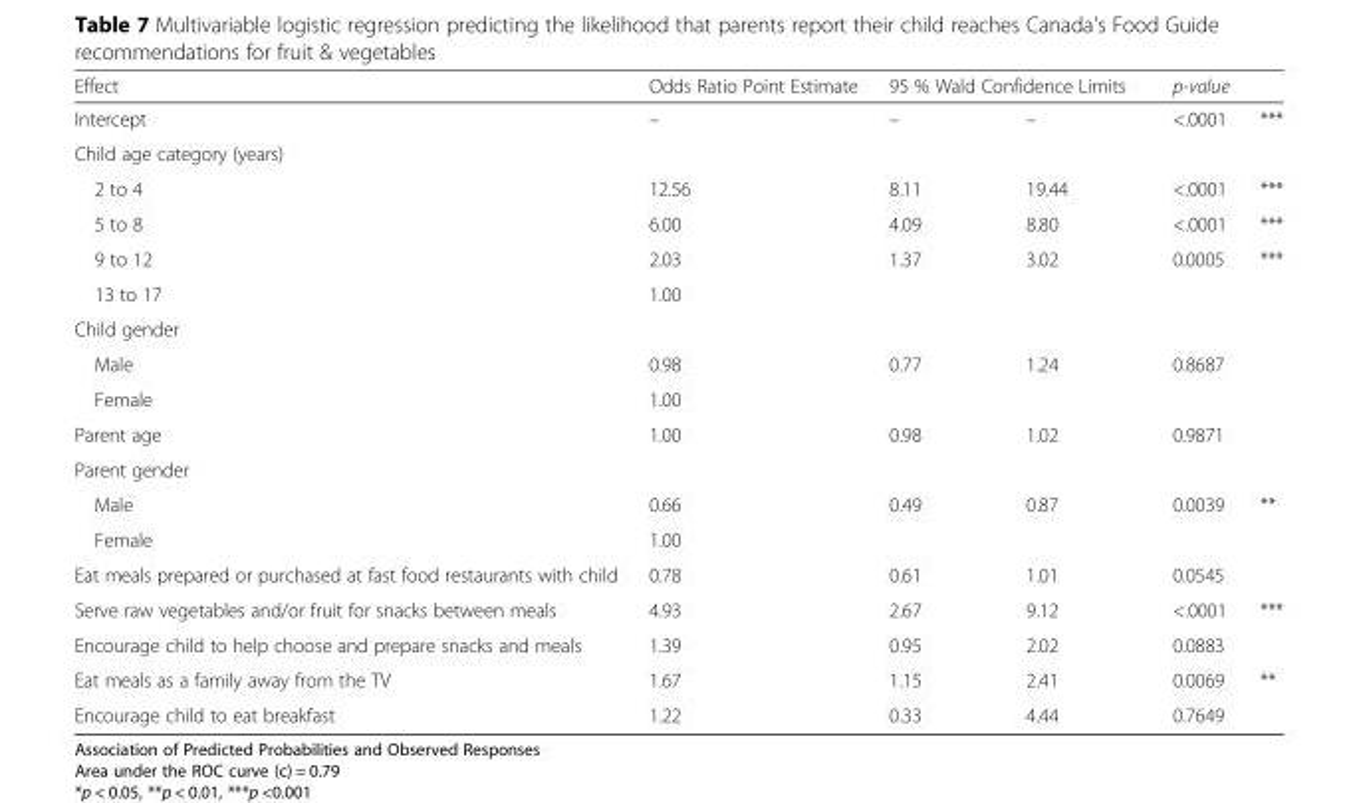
<table><thead><tr><td rowspan="2">Effect Intercept</td><td rowspan="2">Odds Ratio Point Estimate –</td><td colspan="2">95 % Wald Confidence Limits</td><td rowspan="2">p-value &lt;.0001</td><td rowspan="2">***</td></tr><tr><td>–</td><td>–</td></tr></thead><tbody><tr><td colspan="6">Child age category (years)</td></tr><tr><td>2 to 4</td><td>12.56</td><td>8.11</td><td>19.44</td><td>&lt;.0001</td><td>***</td></tr><tr><td>5 to 8</td><td>6.00</td><td>4.09</td><td>8.80</td><td>&lt;.0001</td><td>***</td></tr><tr><td>9 to 12</td><td>2.03</td><td>1.37</td><td>3.02</td><td>0.0005</td><td>***</td></tr><tr><td>13 to 17</td><td>1.00</td><td></td><td></td><td></td><td></td></tr><tr><td colspan="6">Child gender</td></tr><tr><td>Male</td><td>0.98</td><td>0.77</td><td>1.24</td><td>0.8687</td><td></td></tr><tr><td>Female</td><td>1.00</td><td></td><td></td><td></td><td></td></tr><tr><td>Parent age</td><td>1.00</td><td>0.98</td><td>1.02</td><td>0.9871</td><td></td></tr><tr><td colspan="6">Parent gender</td></tr><tr><td>Male</td><td>0.66</td><td>0.49</td><td>0.87</td><td>0.0039</td><td>**</td></tr><tr><td>Female</td><td>1.00</td><td></td><td></td><td></td><td></td></tr><tr><td>Eat meals prepared or purchased at fast food restaurants with child</td><td>0.78</td><td>0.61</td><td>1.01</td><td>0.0545</td><td></td></tr><tr><td>Serve raw vegetables and/or fruit for snacks between meals</td><td>4.93</td><td>2.67</td><td>9.12</td><td>&lt;.0001</td><td>***</td></tr><tr><td>Encourage child to help choose and prepare snacks and meals</td><td>1.39</td><td>0.95</td><td>2.02</td><td>0.0883</td><td></td></tr><tr><td>Eat meals as a family away from the TV</td><td>1.67</td><td>1.15</td><td>2.41</td><td>0.0069</td><td>**</td></tr><tr><td>Encourage child to eat breakfast</td><td>1.22</td><td>0.33</td><td>4.44</td><td>0.7649</td><td></td></tr></tbody></table>